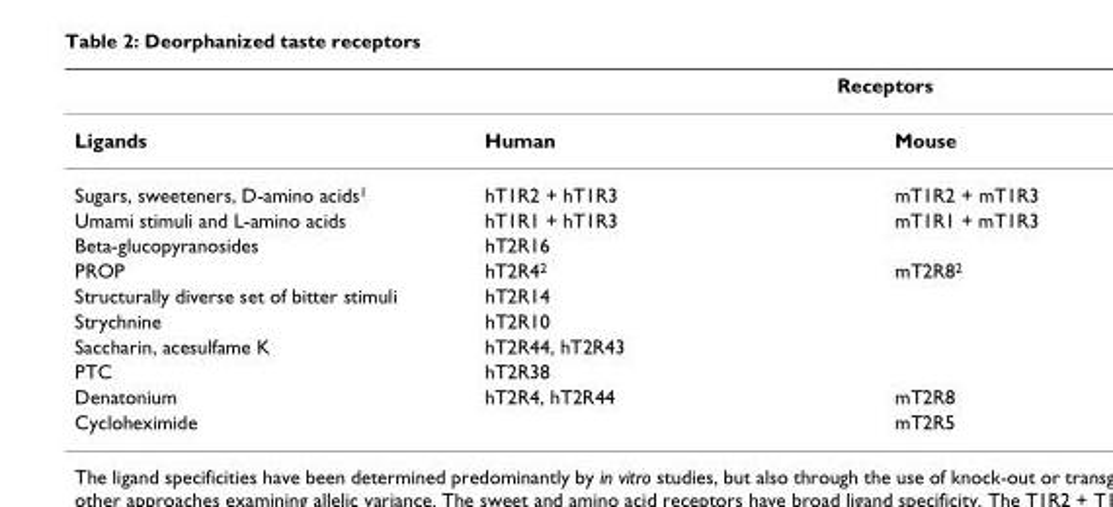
<table><thead><tr><td rowspan="2">Ligands</td><td colspan="2">Receptors</td></tr><tr><td>Human</td><td>Mouse</td></tr></thead><tbody><tr><td>Sugars, sweeteners, D-amino acids<sup>1</sup></td><td>hT1R2 + hT1R3</td><td>mT1R2 + mT1R3</td></tr><tr><td>Umami stimuli and L-amino acids</td><td>hT1R1 + hT1R3</td><td>mT1R1 + mT1R3</td></tr><tr><td>Beta-glucopyranosides</td><td>hT2R16</td><td></td></tr><tr><td>PROP</td><td>hT2R4<sup>2</sup></td><td>mT2R8<sup>2</sup></td></tr><tr><td>Structurally diverse set of bitter stimuli</td><td>hT2R14</td><td></td></tr><tr><td>Strychnine</td><td>hT2R10</td><td></td></tr><tr><td>Saccharin, acesulfame K</td><td>hT2R44, hT2R43</td><td></td></tr><tr><td>PTC</td><td>hT2R38</td><td></td></tr><tr><td>Denatonium</td><td>hT2R4, hT2R44</td><td>mT2R8</td></tr><tr><td>Cycloheximide</td><td></td><td>mT2R5</td></tr></tbody></table>